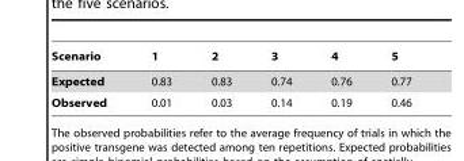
<table><thead><tr><td>Scenario</td><td>1</td><td>2</td><td>3</td><td>4</td><td>5</td></tr></thead><tbody><tr><td>Expected</td><td>0.83</td><td>0.83</td><td>0.74</td><td>0.76</td><td>0.77</td></tr><tr><td>Observed</td><td>0.01</td><td>0.03</td><td>0.14</td><td>0.19</td><td>0.46</td></tr></tbody></table>